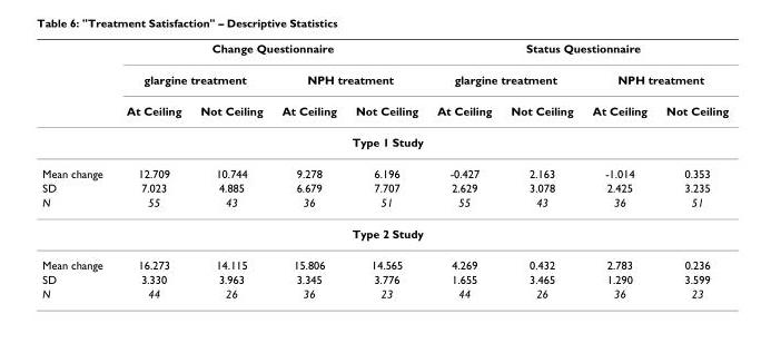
<table><thead><tr><td rowspan="3"></td><td colspan="4">Change Questionnaire</td><td colspan="4">Status Questionnaire</td></tr><tr><td colspan="2">glargine treatment</td><td colspan="2">NPH treatment</td><td colspan="2">glargine treatment</td><td colspan="2">NPH treatment</td></tr><tr><td>At Ceiling</td><td>Not Ceiling</td><td>At Ceiling</td><td>Not Ceiling</td><td>At Ceiling</td><td>Not Ceiling</td><td>At Ceiling</td><td>Not Ceiling</td></tr></thead><tbody><tr><td colspan="9">Type 1 Study</td></tr><tr><td>Mean change</td><td>12.709</td><td>10.744</td><td>9.278</td><td>6.196</td><td>-0.427</td><td>2.163</td><td>-1.014</td><td>0.353</td></tr><tr><td>SD</td><td>7.023</td><td>4.885</td><td>6.679</td><td>7.707</td><td>2.629</td><td>3.078</td><td>2.425</td><td>3.235</td></tr><tr><td>N</td><td>55</td><td>43</td><td>36</td><td>51</td><td>55</td><td>43</td><td>36</td><td>51</td></tr><tr><td colspan="9">Type 2 Study</td></tr><tr><td>Mean change</td><td>16.273</td><td>14.115</td><td>15.806</td><td>14.565</td><td>4.269</td><td>0.432</td><td>2.783</td><td>0.236</td></tr><tr><td>SD</td><td>3.330</td><td>3.963</td><td>3.345</td><td>3.776</td><td>1.655</td><td>3.465</td><td>1.290</td><td>3.599</td></tr><tr><td>N</td><td>44</td><td>26</td><td>36</td><td>23</td><td>44</td><td>26</td><td>36</td><td>23</td></tr></tbody></table>